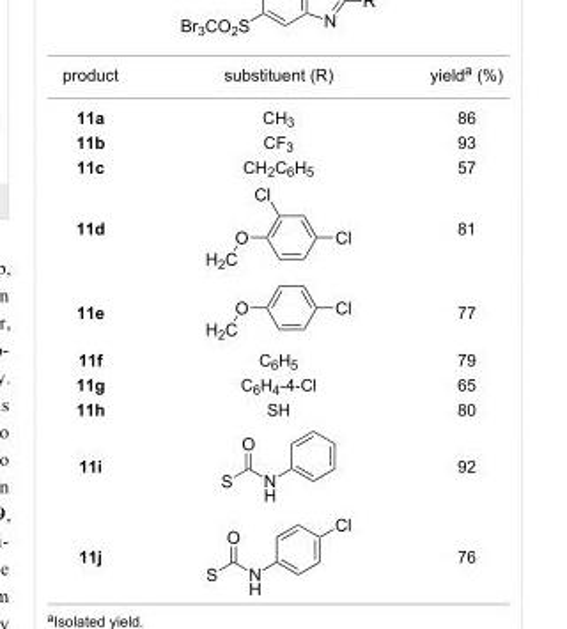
<table><tbody><tr><td>product</td><td>substituent (R)</td><td>yield<sup>a</sup> (%)</td></tr><tr><td>11a</td><td>CH<sub>3</sub></td><td>86</td></tr><tr><td>11b</td><td>CF<sub>3</sub></td><td>93</td></tr><tr><td>11c</td><td>CH<sub>2</sub>C<sub>6</sub>H<sub>5</sub></td><td>57</td></tr><tr><td>11d</td><td></td><td>81</td></tr><tr><td>11e</td><td></td><td>77</td></tr><tr><td>11f</td><td>C<sub>6</sub>H<sub>5</sub></td><td>79</td></tr><tr><td>11g</td><td>C<sub>6</sub>H<sub>4</sub>-4-Cl</td><td>65</td></tr><tr><td>11h</td><td>SH</td><td>80</td></tr><tr><td>11i</td><td></td><td>92</td></tr><tr><td>11j</td><td></td><td>76</td></tr></tbody></table>